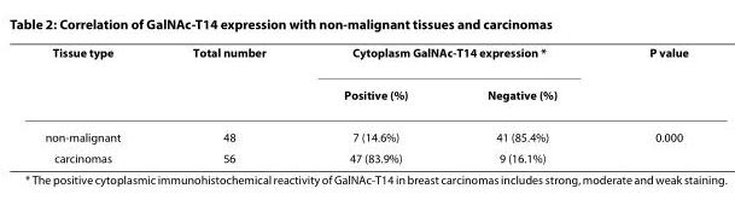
<table><thead><tr><td rowspan="2">Tissue type</td><td rowspan="2">Total number</td><td colspan="2">Cytoplasm GalNAc-T14 expression *</td><td rowspan="2">P value</td></tr><tr><td>Positive (%)</td><td>Negative (%)</td></tr></thead><tbody><tr><td>non-malignant</td><td>48</td><td>7 (14.6%)</td><td>41 (85.4%)</td><td>0.000</td></tr><tr><td>carcinomas</td><td>56</td><td>47 (83.9%)</td><td>9 (16.1%)</td><td></td></tr></tbody></table>